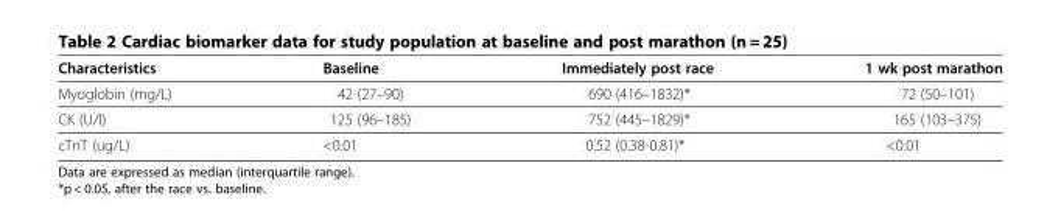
<table><thead><tr><td>Characteristics</td><td>Baseline</td><td>Immediately post race</td><td>1 wk post marathon</td></tr></thead><tbody><tr><td>Myoglobin (mg/L)</td><td>42 (27–90)</td><td>690 (416–1832)*</td><td>72 (50–101)</td></tr><tr><td>CK (U/l)</td><td>125 (96–185)</td><td>752 (445–1829)*</td><td>165 (103–375)</td></tr><tr><td>cTnT (ug/L)</td><td>&lt;0.01</td><td>0.52 (0.38-0.81)*</td><td>&lt;0.01</td></tr></tbody></table>